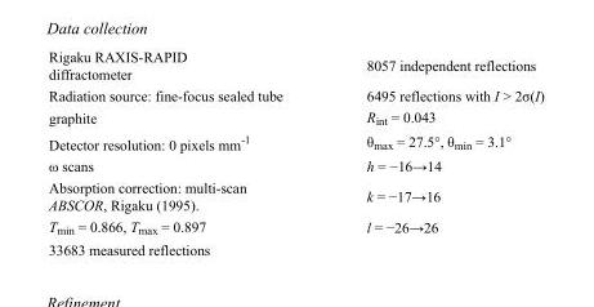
<table><tbody><tr><td>Rigaku RAXIS-RAPID diffractometer</td><td>8057 independent reflections</td></tr><tr><td>Radiation source: fine-focus sealed tube</td><td>6495 reflections with I &gt; 2σ(I)</td></tr><tr><td>graphite</td><td>R<sub>int</sub> = 0.043</td></tr><tr><td>Detector resolution: 0 pixels mm<sup>-1</sup></td><td>θ<sub>max</sub> = 27.5°, θ<sub>min</sub> = 3.1°</td></tr><tr><td>ω scans</td><td>h = −16→14</td></tr><tr><td>Absorption correction: multi-scan ABSCOR, Rigaku (1995).</td><td>k = −17→16</td></tr><tr><td>T<sub>min</sub> = 0.866, T<sub>max</sub> = 0.897</td><td>l = −26→26</td></tr><tr><td>33683 measured reflections</td><td></td></tr></tbody></table>